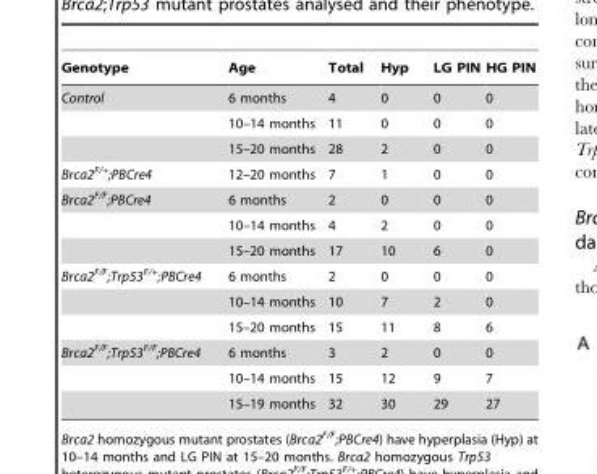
<table><thead><tr><td>Genotype</td><td>Age</td><td>Total</td><td>Hyp</td><td>LG PIN</td><td>HG PIN</td></tr></thead><tbody><tr><td rowspan="3">Control</td><td>6 months</td><td>4</td><td>0</td><td>0</td><td>0</td></tr><tr><td>10–14 months</td><td>11</td><td>0</td><td>0</td><td>0</td></tr><tr><td>15–20 months</td><td>28</td><td>2</td><td>0</td><td>0</td></tr><tr><td>Brca2<sup>F/+</sup>;PBCre4</td><td>12–20 months</td><td>7</td><td>1</td><td>0</td><td>0</td></tr><tr><td rowspan="3">Brca2<sup>F/F</sup>;PBCre4</td><td>6 months</td><td>2</td><td>0</td><td>0</td><td>0</td></tr><tr><td>10–14 months</td><td>4</td><td>2</td><td>0</td><td>0</td></tr><tr><td>15–20 months</td><td>17</td><td>10</td><td>6</td><td>0</td></tr><tr><td rowspan="3">Brca2<sup>F/F</sup>;Trp53<sup>F/+</sup>;PBCre4</td><td>6 months</td><td>2</td><td>0</td><td>0</td><td>0</td></tr><tr><td>10–14 months</td><td>10</td><td>7</td><td>2</td><td>0</td></tr><tr><td>15–20 months</td><td>15</td><td>11</td><td>8</td><td>6</td></tr><tr><td rowspan="3">Brca2<sup>F/F</sup>;Trp53<sup>F/F</sup>;PBCre4</td><td>6 months</td><td>3</td><td>2</td><td>0</td><td>0</td></tr><tr><td>10–14 months</td><td>15</td><td>12</td><td>9</td><td>7</td></tr><tr><td>15–19 months</td><td>32</td><td>30</td><td>29</td><td>27</td></tr></tbody></table>